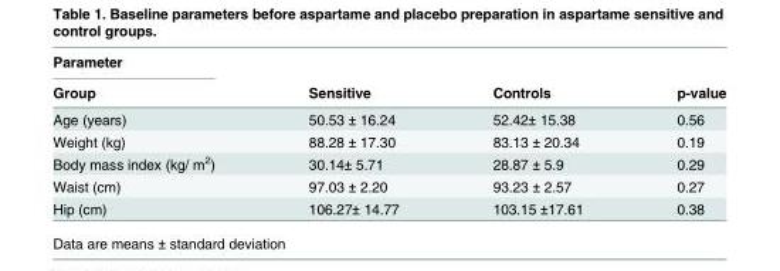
<table><thead><tr><td rowspan="2">Parameter Group</td><td rowspan="2">Sensitive</td><td rowspan="2">Controls</td><td rowspan="2">p-value</td></tr><tr></tr></thead><tbody><tr><td>Age (years)</td><td>50.53 ± 16.24</td><td>52.42± 15.38</td><td>0.56</td></tr><tr><td>Weight (kg)</td><td>88.28 ± 17.30</td><td>83.13 ± 20.34</td><td>0.19</td></tr><tr><td>Body mass index (kg/ m<sup>2</sup>)</td><td>30.14± 5.71</td><td>28.87 ± 5.9</td><td>0.29</td></tr><tr><td>Waist (cm)</td><td>97.03 ± 2.20</td><td>93.23 ± 2.57</td><td>0.27</td></tr><tr><td>Hip (cm)</td><td>106.27± 14.77</td><td>103.15 ±17.61</td><td>0.38</td></tr></tbody></table>